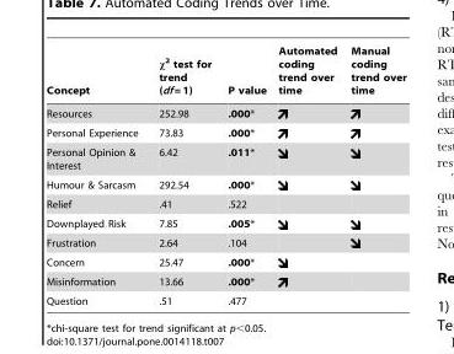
<table><thead><tr><td>Concept</td><td>χ<sup>2</sup> test for trend (df = 1)</td><td>P value</td><td>Automated coding trend over time</td><td>Manual coding trend over time</td></tr></thead><tbody><tr><td>Resources</td><td>252.98</td><td>.000*</td><td></td><td></td></tr><tr><td>Personal Experience</td><td>73.83</td><td>.000*</td><td></td><td></td></tr><tr><td>Personal Opinion &amp; Interest</td><td>6.42</td><td>.011*</td><td></td><td></td></tr><tr><td>Humour &amp; Sarcasm</td><td>292.54</td><td>.000*</td><td></td><td></td></tr><tr><td>Relief</td><td>.41</td><td>.522</td><td></td><td></td></tr><tr><td>Downplayed Risk</td><td>7.85</td><td>.005*</td><td></td><td></td></tr><tr><td>Frustration</td><td>2.64</td><td>.104</td><td></td><td></td></tr><tr><td>Concern</td><td>25.47</td><td>.000*</td><td></td><td></td></tr><tr><td>Misinformation</td><td>13.66</td><td>.000*</td><td></td><td></td></tr><tr><td>Question</td><td>.51</td><td>.477</td><td></td><td></td></tr></tbody></table>